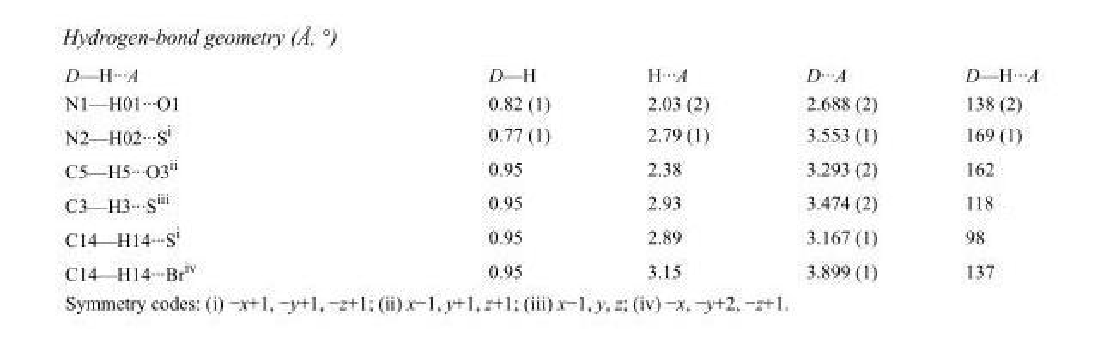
<table><tbody><tr><td>D—H···A</td><td>D—H</td><td>H···A</td><td>D···A</td><td>D—H···A</td></tr><tr><td>N1—H01···O1</td><td>0.82 (1)</td><td>2.03 (2)</td><td>2.688 (2)</td><td>138 (2)</td></tr><tr><td>N2—H02···S<sup>i</sup></td><td>0.77 (1)</td><td>2.79 (1)</td><td>3.553 (1)</td><td>169 (1)</td></tr><tr><td>C5—H5···O3<sup>ii</sup></td><td>0.95</td><td>2.38</td><td>3.293 (2)</td><td>162</td></tr><tr><td>C3—H3···S<sup>iii</sup></td><td>0.95</td><td>2.93</td><td>3.474 (2)</td><td>118</td></tr><tr><td>C14—H14···S<sup>i</sup></td><td>0.95</td><td>2.89</td><td>3.167 (1)</td><td>98</td></tr><tr><td>C14—H14···Br<sup>iv</sup></td><td>0.95</td><td>3.15</td><td>3.899 (1)</td><td>137</td></tr></tbody></table>